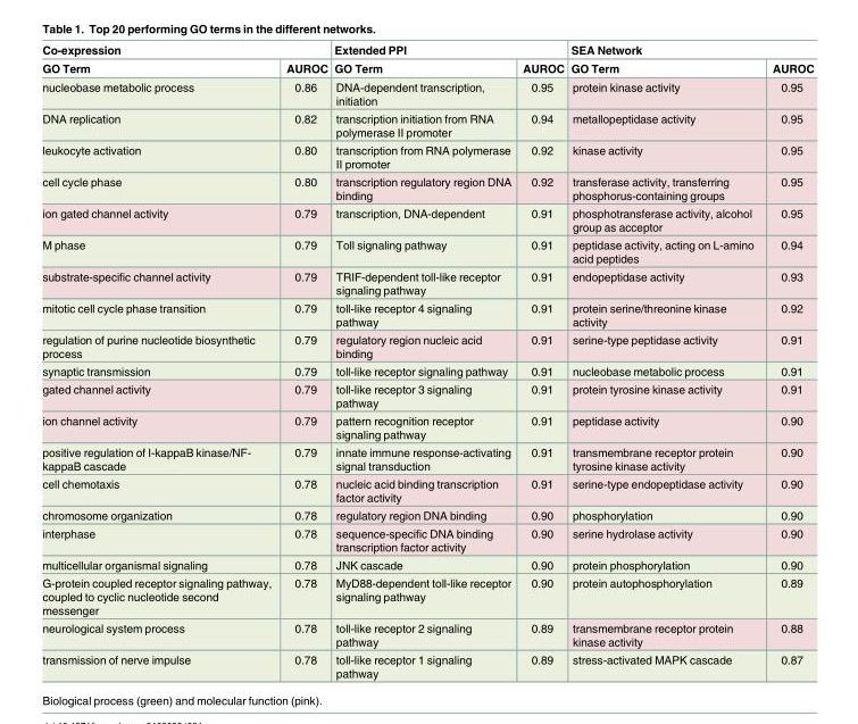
<table><thead><tr><td colspan="2">Co-expression</td><td colspan="2">Extended PPI</td><td colspan="2">SEA Network</td></tr><tr><td>GO Term</td><td>AUROC</td><td>GO Term</td><td>AUROC</td><td>GO Term</td><td>AUROC</td></tr></thead><tbody><tr><td>nucleobase metabolic process</td><td>0.86</td><td>DNA-dependent transcription, initiation</td><td>0.95</td><td>protein kinase activity</td><td>0.95</td></tr><tr><td>DNA replication</td><td>0.82</td><td>transcription initiation from RNA polymerase II promoter</td><td>0.94</td><td>metallopeptidase activity</td><td>0.95</td></tr><tr><td>leukocyte activation</td><td>0.80</td><td>transcription from RNA polymerase II promoter</td><td>0.92</td><td>kinase activity</td><td>0.95</td></tr><tr><td>cell cycle phase</td><td>0.80</td><td>transcription regulatory region DNA binding</td><td>0.92</td><td>transferase activity, transferring phosphorus-containing groups</td><td>0.95</td></tr><tr><td>ion gated channel activity</td><td>0.79</td><td>transcription, DNA-dependent</td><td>0.91</td><td>phosphotransferase activity, alcohol group as acceptor</td><td>0.95</td></tr><tr><td>M phase</td><td>0.79</td><td>Toll signaling pathway</td><td>0.91</td><td>peptidase activity, acting on L-amino acid peptides</td><td>0.94</td></tr><tr><td>substrate-specific channel activity</td><td>0.79</td><td>TRIF-dependent toll-like receptor signaling pathway</td><td>0.91</td><td>endopeptidase activity</td><td>0.93</td></tr><tr><td>mitotic cell cycle phase transition</td><td>0.79</td><td>toll-like receptor 4 signaling pathway</td><td>0.91</td><td>protein serine/threonine kinase activity</td><td>0.92</td></tr><tr><td>regulation of purine nucleotide biosynthetic process</td><td>0.79</td><td>regulatory region nucleic acid binding</td><td>0.91</td><td>serine-type peptidase activity</td><td>0.91</td></tr><tr><td>synaptic transmission</td><td>0.79</td><td>toll-like receptor signaling pathway</td><td>0.91</td><td>nucleobase metabolic process</td><td>0.91</td></tr><tr><td>gated channel activity</td><td>0.79</td><td>toll-like receptor 3 signaling pathway</td><td>0.91</td><td>protein tyrosine kinase activity</td><td>0.91</td></tr><tr><td>ion channel activity</td><td>0.79</td><td>pattern recognition receptor signaling pathway</td><td>0.91</td><td>peptidase activity</td><td>0.90</td></tr><tr><td>positive regulation of I-kappaB kinase/NF- kappaB cascade</td><td>0.79</td><td>innate immune response-activating signal transduction</td><td>0.91</td><td>transmembrane receptor protein tyrosine kinase activity</td><td>0.90</td></tr><tr><td>cell chemotaxis</td><td>0.78</td><td>nucleic acid binding transcription factor activity</td><td>0.91</td><td>serine-type endopeptidase activity</td><td>0.90</td></tr><tr><td>chromosome organization</td><td>0.78</td><td>regulatory region DNA binding</td><td>0.90</td><td>phosphorylation</td><td>0.90</td></tr><tr><td>interphase</td><td>0.78</td><td>sequence-specific DNA binding transcription factor activity</td><td>0.90</td><td>serine hydrolase activity</td><td>0.90</td></tr><tr><td>multicellular organismal signaling</td><td>0.78</td><td>JNK cascade</td><td>0.90</td><td>protein phosphorylation</td><td>0.90</td></tr><tr><td>G-protein coupled receptor signaling pathway, coupled to cyclic nucleotide second messenger</td><td>0.78</td><td>MyD88-dependent toll-like receptor signaling pathway</td><td>0.90</td><td>protein autophosphorylation</td><td>0.89</td></tr><tr><td>neurological system process</td><td>0.78</td><td>toll-like receptor 2 signaling pathway</td><td>0.89</td><td>transmembrane receptor protein kinase activity</td><td>0.88</td></tr><tr><td>transmission of nerve impulse</td><td>0.78</td><td>toll-like receptor 1 signaling pathway</td><td>0.89</td><td>stress-activated MAPK cascade</td><td>0.87</td></tr></tbody></table>